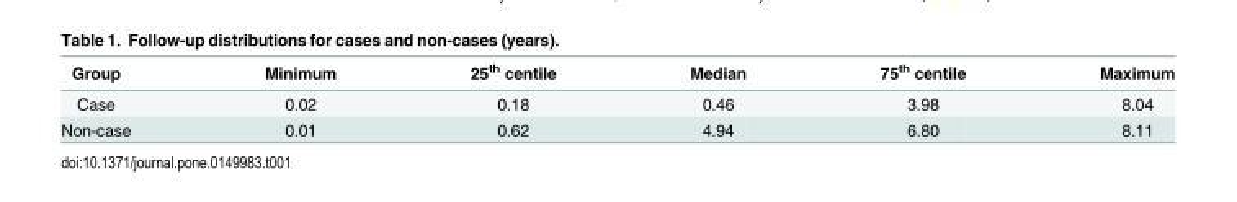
<table><thead><tr><td>Group</td><td>Minimum</td><td>25<sup>th</sup> centile</td><td>Median</td><td>75<sup>th</sup> centile</td><td>Maximum</td></tr></thead><tbody><tr><td>Case</td><td>0.02</td><td>0.18</td><td>0.46</td><td>3.98</td><td>8.04</td></tr><tr><td>Non-case</td><td>0.01</td><td>0.62</td><td>4.94</td><td>6.80</td><td>8.11</td></tr></tbody></table>